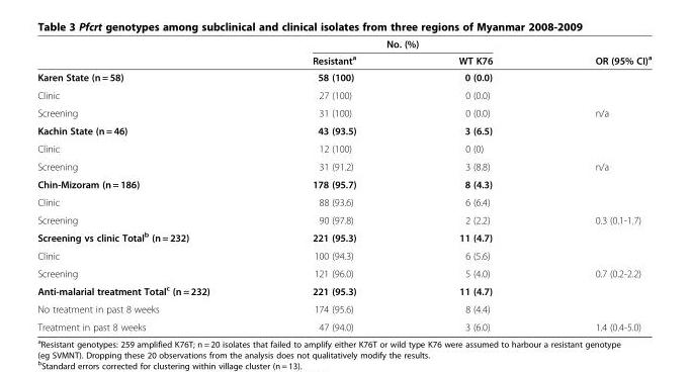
<table><thead><tr><td rowspan="2"></td><td colspan="2">No. (%)</td><td rowspan="2">OR (95% CI)<sup>a</sup></td></tr><tr><td>Resistant<sup>a</sup></td><td>WT K76</td></tr></thead><tbody><tr><td>Karen State (n = 58)</td><td>58 (100)</td><td>0 (0.0)</td><td></td></tr><tr><td>Clinic</td><td>27 (100)</td><td>0 (0.0)</td><td></td></tr><tr><td>Screening</td><td>31 (100)</td><td>0 (0.0)</td><td>n/a</td></tr><tr><td>Kachin State (n = 46)</td><td>43 (93.5)</td><td>3 (6.5)</td><td></td></tr><tr><td>Clinic</td><td>12 (100)</td><td>0 (0)</td><td></td></tr><tr><td>Screening</td><td>31 (91.2)</td><td>3 (8.8)</td><td>n/a</td></tr><tr><td>Chin-Mizoram (n = 186)</td><td>178 (95.7)</td><td>8 (4.3)</td><td></td></tr><tr><td>Clinic</td><td>88 (93.6)</td><td>6 (6.4)</td><td></td></tr><tr><td>Screening</td><td>90 (97.8)</td><td>2 (2.2)</td><td>0.3 (0.1-1.7)</td></tr><tr><td>Screening vs clinic Total<sup>b</sup> (n = 232)</td><td>221 (95.3)</td><td>11 (4.7)</td><td></td></tr><tr><td>Clinic</td><td>100 (94.3)</td><td>6 (5.6)</td><td></td></tr><tr><td>Screening</td><td>121 (96.0)</td><td>5 (4.0)</td><td>0.7 (0.2-2.2)</td></tr><tr><td>Anti-malarial treatment Total<sup>c</sup> (n = 232)</td><td>221 (95.3)</td><td>11 (4.7)</td><td></td></tr><tr><td>No treatment in past 8 weeks</td><td>174 (95.6)</td><td>8 (4.4)</td><td></td></tr><tr><td>Treatment in past 8 weeks</td><td>47 (94.0)</td><td>3 (6.0)</td><td>1.4 (0.4-5.0)</td></tr></tbody></table>